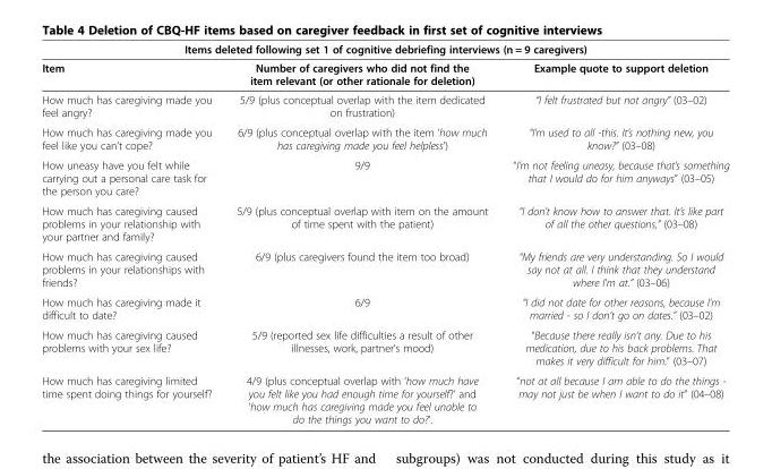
<table><thead><tr><td colspan="3">Items deleted following set 1 of cognitive debriefing interviews (n = 9 caregivers)</td></tr><tr><td>Item</td><td>Number of caregivers who did not find the item relevant (or other rationale for deletion)</td><td>Example quote to support deletion</td></tr></thead><tbody><tr><td>How much has caregiving made you feel angry?</td><td>5/9 (plus conceptual overlap with the item dedicated on frustration)</td><td>“I felt frustrated but not angry” (03–02)</td></tr><tr><td>How much has caregiving made you feel like you can’t cope?</td><td>6/9 (plus conceptual overlap with the item ‘how much has caregiving made you feel helpless’)</td><td>“I’m used to all -this. It’s nothing new, you know?” (03–08)</td></tr><tr><td>How uneasy have you felt while carrying out a personal care task for the person you care?</td><td>9/9</td><td>“I’m not feeling uneasy, because that’s something that I would do for him anyways” (03–05)</td></tr><tr><td>How much has caregiving caused problems in your relationship with your partner and family?</td><td>5/9 (plus conceptual overlap with item on the amount of time spent with the patient)</td><td>“I don’t know how to answer that. It’s like part of all the other questions,” (03–08)</td></tr><tr><td>How much has caregiving caused problems in your relationships with friends?</td><td>6/9 (plus caregivers found the item too broad)</td><td>“My friends are very understanding. So I would say not at all. I think that they understand where I&#x27;m at.” (03–06)</td></tr><tr><td>How much has caregiving made it difficult to date?</td><td>6/9</td><td>“I did not date for other reasons, because I’m married - so I don’t go on dates.” (03–02)</td></tr><tr><td>How much has caregiving caused problems with your sex life?</td><td>5/9 (reported sex life difficulties a result of other illnesses, work, partner’s mood)</td><td>“Because there really isn’t any. Due to his medication, due to his back problems. That makes it very difficult for him.” (03–07)</td></tr><tr><td>How much has caregiving limited time spent doing things for yourself?</td><td>4/9 (plus conceptual overlap with ‘how much have you felt like you had enough time for yourself?’ and ‘how much has caregiving made you feel unable to do the things you want to do?’.</td><td>“not at all because I am able to do the things - may not just be when I want to do it” (04–08)</td></tr></tbody></table>